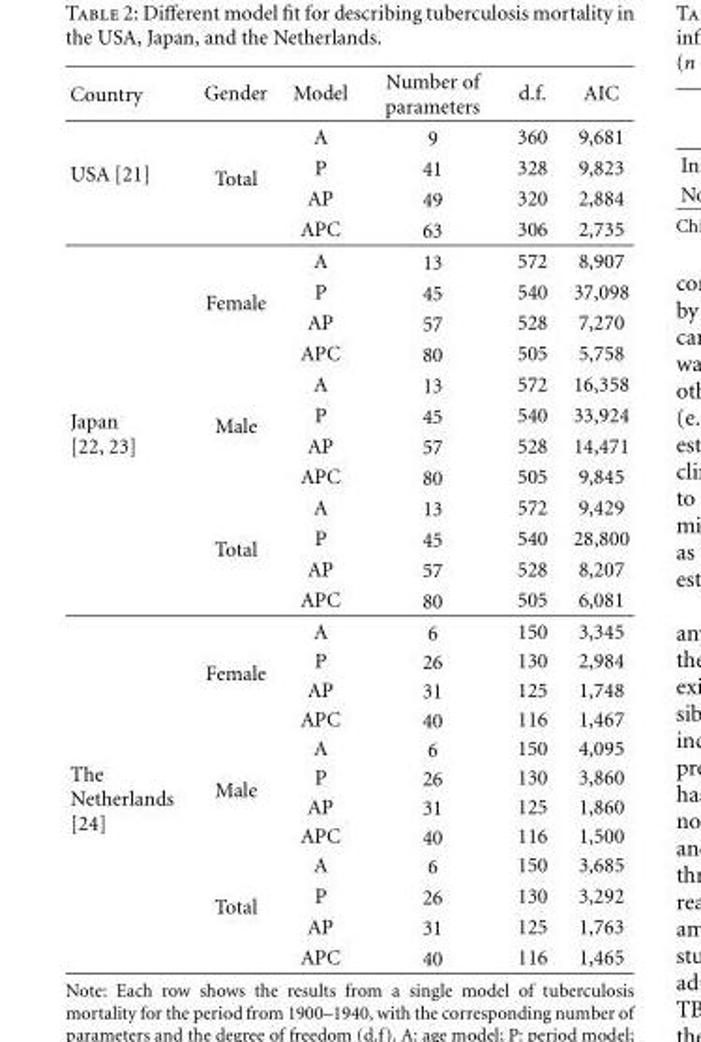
<table><thead><tr><td>Country</td><td>Gender</td><td>Model</td><td>Number of parameters</td><td>d.f.</td><td>AIC</td></tr></thead><tbody><tr><td rowspan="4">USA [21]</td><td rowspan="4">Total</td><td>A</td><td>9</td><td>360</td><td>9,681</td></tr><tr><td>P</td><td>41</td><td>328</td><td>9,823</td></tr><tr><td>AP</td><td>49</td><td>320</td><td>2,884</td></tr><tr><td>APC</td><td>63</td><td>306</td><td>2,735</td></tr><tr><td rowspan="12">Japan [22, 23]</td><td rowspan="4">Female</td><td>A</td><td>13</td><td>572</td><td>8,907</td></tr><tr><td>P</td><td>45</td><td>540</td><td>37,098</td></tr><tr><td>AP</td><td>57</td><td>528</td><td>7,270</td></tr><tr><td>APC</td><td>80</td><td>505</td><td>5,758</td></tr><tr><td rowspan="4">Male</td><td>A</td><td>13</td><td>572</td><td>16,358</td></tr><tr><td>P</td><td>45</td><td>540</td><td>33,924</td></tr><tr><td>AP</td><td>57</td><td>528</td><td>14,471</td></tr><tr><td>APC</td><td>80</td><td>505</td><td>9,845</td></tr><tr><td rowspan="4">Total</td><td>A</td><td>13</td><td>572</td><td>9,429</td></tr><tr><td>P</td><td>45</td><td>540</td><td>28,800</td></tr><tr><td>AP</td><td>57</td><td>528</td><td>8,207</td></tr><tr><td>APC</td><td>80</td><td>505</td><td>6,081</td></tr><tr><td rowspan="12">The Netherlands [24]</td><td rowspan="4">Female</td><td>A</td><td>6</td><td>150</td><td>3,345</td></tr><tr><td>P</td><td>26</td><td>130</td><td>2,984</td></tr><tr><td>AP</td><td>31</td><td>125</td><td>1,748</td></tr><tr><td>APC</td><td>40</td><td>116</td><td>1,467</td></tr><tr><td rowspan="4">Male</td><td>A</td><td>6</td><td>150</td><td>4,095</td></tr><tr><td>P</td><td>26</td><td>130</td><td>3,860</td></tr><tr><td>AP</td><td>31</td><td>125</td><td>1,860</td></tr><tr><td>APC</td><td>40</td><td>116</td><td>1,500</td></tr><tr><td rowspan="4">Total</td><td>A</td><td>6</td><td>150</td><td>3,685</td></tr><tr><td>P</td><td>26</td><td>130</td><td>3,292</td></tr><tr><td>AP</td><td>31</td><td>125</td><td>1,763</td></tr><tr><td>APC</td><td>40</td><td>116</td><td>1,465</td></tr></tbody></table>